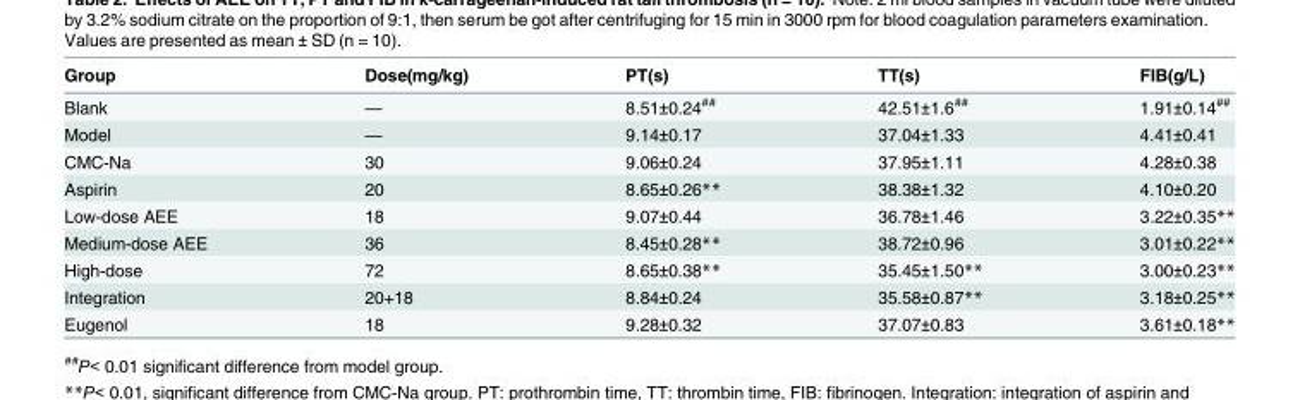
<table><thead><tr><td>Group</td><td>Dose(mg/kg)</td><td>PT(s)</td><td>TT(s)</td><td>FIB(g/L)</td></tr></thead><tbody><tr><td>Blank</td><td>—</td><td>8.51±0.24<sup>##</sup></td><td>42.51±1.6<sup>##</sup></td><td>1.91±0.14<sup>##</sup></td></tr><tr><td>Model</td><td>—</td><td>9.14±0.17</td><td>37.04±1.33</td><td>4.41±0.41</td></tr><tr><td>CMC-Na</td><td>30</td><td>9.06±0.24</td><td>37.95±1.11</td><td>4.28±0.38</td></tr><tr><td>Aspirin</td><td>20</td><td>8.65±0.26**</td><td>38.38±1.32</td><td>4.10±0.20</td></tr><tr><td>Low-dose AEE</td><td>18</td><td>9.07±0.44</td><td>36.78±1.46</td><td>3.22±0.35**</td></tr><tr><td>Medium-dose AEE</td><td>36</td><td>8.45±0.28**</td><td>38.72±0.96</td><td>3.01±0.22**</td></tr><tr><td>High-dose</td><td>72</td><td>8.65±0.38**</td><td>35.45±1.50**</td><td>3.00±0.23**</td></tr><tr><td>Integration</td><td>20+18</td><td>8.84±0.24</td><td>35.58±0.87**</td><td>3.18±0.25**</td></tr><tr><td>Eugenol</td><td>18</td><td>9.28±0.32</td><td>37.07±0.83</td><td>3.61±0.18**</td></tr></tbody></table>